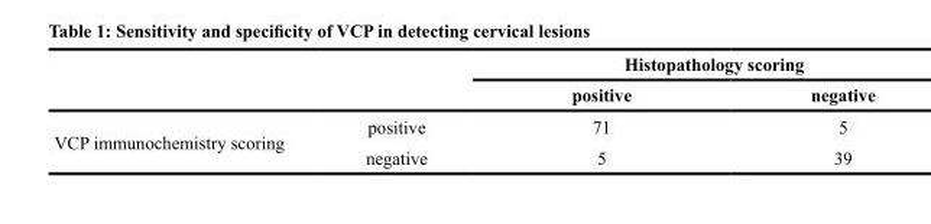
<table><thead><tr><td rowspan="2"></td><td rowspan="2"></td><td colspan="2">Histopathology scoring</td></tr><tr><td>positive</td><td>negative</td></tr></thead><tbody><tr><td rowspan="2">VCP immunochemistry scoring</td><td>positive</td><td>71</td><td>5</td></tr><tr><td>negative</td><td>5</td><td>39</td></tr></tbody></table>